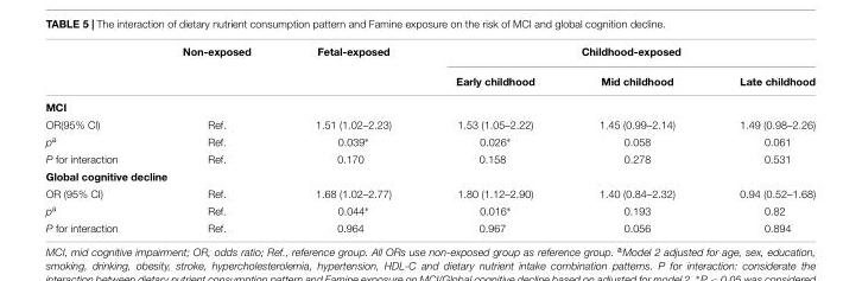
<table><thead><tr><td rowspan="2"></td><td rowspan="2">Non-exposed</td><td rowspan="2">Fetal-exposed</td><td colspan="3">Childhood-exposed</td></tr><tr><td>Early childhood</td><td>Mid childhood</td><td>Late childhood</td></tr></thead><tbody><tr><td colspan="6">MCI</td></tr><tr><td>OR(95% CI)</td><td>Ref.</td><td>1.51 (1.02–2.23)</td><td>1.53 (1.05–2.22)</td><td>1.45 (0.99–2.14)</td><td>1.49 (0.98–2.26)</td></tr><tr><td>p<sup>a</sup></td><td>Ref.</td><td>0.039∗</td><td>0.026∗</td><td>0.058</td><td>0.061</td></tr><tr><td>P for interaction</td><td>Ref.</td><td>0.170</td><td>0.158</td><td>0.278</td><td>0.531</td></tr><tr><td colspan="6">Global cognitive decline</td></tr><tr><td>OR (95% CI)</td><td>Ref.</td><td>1.68 (1.02–2.77)</td><td>1.80 (1.12–2.90)</td><td>1.40 (0.84–2.32)</td><td>0.94 (0.52–1.68)</td></tr><tr><td>p<sup>a</sup></td><td>Ref.</td><td>0.044∗</td><td>0.016∗</td><td>0.193</td><td>0.82</td></tr><tr><td>P for interaction</td><td>Ref.</td><td>0.964</td><td>0.967</td><td>0.056</td><td>0.894</td></tr></tbody></table>